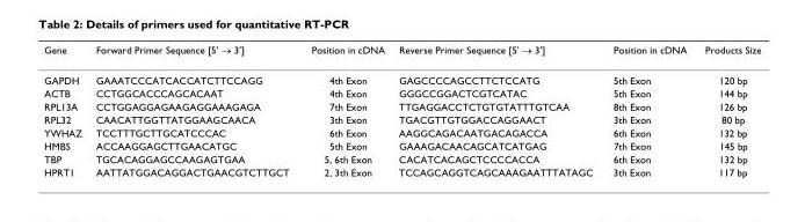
<table><thead><tr><td>Gene</td><td>Forward Primer Sequence [5&#x27; → 3&#x27;]</td><td>Position in cDNA</td><td>Reverse Primer Sequence [5&#x27; → 3&#x27;]</td><td>Position in cDNA</td><td>Products Size</td></tr></thead><tbody><tr><td>GAPDH</td><td>GAAATCCCATCACCATCTTCCAGG</td><td>4th Exon</td><td>GAGCCCCAGCCTTCTCCATG</td><td>5th Exon</td><td>120 bp</td></tr><tr><td>ACTB</td><td>CCTGGCACCCAGCACAAT</td><td>4th Exon</td><td>GGGCCGGACTCGTCATAC</td><td>5th Exon</td><td>144 bp</td></tr><tr><td>RPL13A</td><td>CCTGGAGGAGAAGAGGAAAGAGA</td><td>7th Exon</td><td>TTGAGGACCTCTGTGTATTTGTCAA</td><td>8th Exon</td><td>126 bp</td></tr><tr><td>RPL32</td><td>CAACATTGGTTATGGAAGCAACA</td><td>3th Exon</td><td>TGACGTTGTGGACCAGGAACT</td><td>3th Exon</td><td>80 bp</td></tr><tr><td>YWHAZ</td><td>TCCTTTGCTTGCATCCCAC</td><td>6th Exon</td><td>AAGGCAGACAATGACAGACCA</td><td>6th Exon</td><td>132 bp</td></tr><tr><td>HMBS</td><td>ACCAAGGAGCTTGAACATGC</td><td>5th Exon</td><td>GAAAGACAACAGCATCATGAG</td><td>7th Exon</td><td>145 bp</td></tr><tr><td>TBP</td><td>TGCACAGGAGCCAAGAGTGAA</td><td>5, 6th Exon</td><td>CACATCACAGCTCCCCACCA</td><td>6th Exon</td><td>132 bp</td></tr><tr><td>HPRT1</td><td>AATTATGGACAGGACTGAACGTCTTGCT</td><td>2, 3th Exon</td><td>TCCAGCAGGTCAGCAAAGAATTTATAGC</td><td>3th Exon</td><td>117 bp</td></tr></tbody></table>